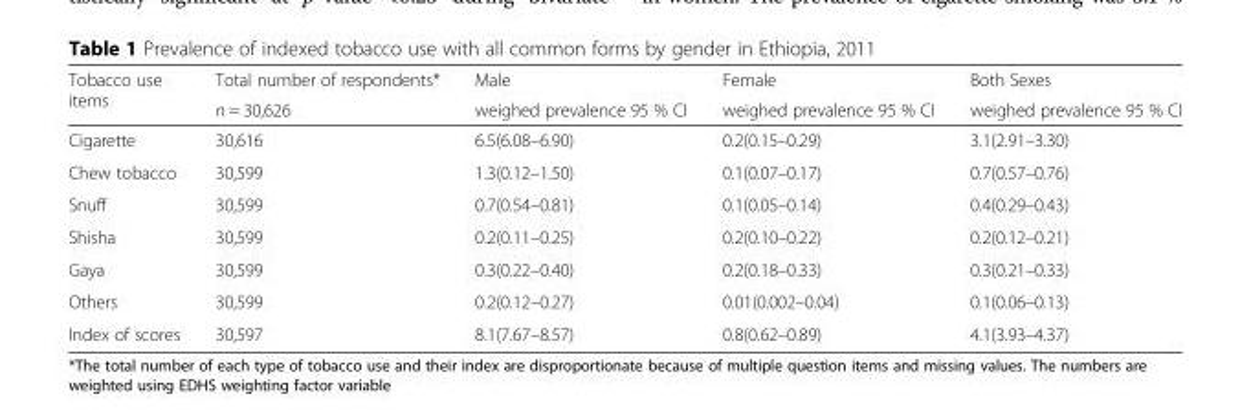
<table><thead><tr><td rowspan="2">Tobacco use items</td><td rowspan="2">Total number of respondents* n = 30,626</td><td rowspan="2">Male weighed prevalence 95 % CI</td><td rowspan="2">Female weighed prevalence 95 % CI</td><td rowspan="2">Both Sexes weighed prevalence 95 % CI</td></tr><tr></tr></thead><tbody><tr><td>Cigarette</td><td>30,616</td><td>6.5(6.08–6.90)</td><td>0.2(0.15–0.29)</td><td>3.1(2.91–3.30)</td></tr><tr><td>Chew tobacco</td><td>30,599</td><td>1.3(0.12–1.50)</td><td>0.1(0.07–0.17)</td><td>0.7(0.57–0.76)</td></tr><tr><td>Snuff</td><td>30,599</td><td>0.7(0.54–0.81)</td><td>0.1(0.05–0.14)</td><td>0.4(0.29–0.43)</td></tr><tr><td>Shisha</td><td>30,599</td><td>0.2(0.11–0.25)</td><td>0.2(0.10–0.22)</td><td>0.2(0.12–0.21)</td></tr><tr><td>Gaya</td><td>30,599</td><td>0.3(0.22–0.40)</td><td>0.2(0.18–0.33)</td><td>0.3(0.21–0.33)</td></tr><tr><td>Others</td><td>30,599</td><td>0.2(0.12–0.27)</td><td>0.01(0.002–0.04)</td><td>0.1(0.06–0.13)</td></tr><tr><td>Index of scores</td><td>30,597</td><td>8.1(7.67–8.57)</td><td>0.8(0.62–0.89)</td><td>4.1(3.93–4.37)</td></tr></tbody></table>